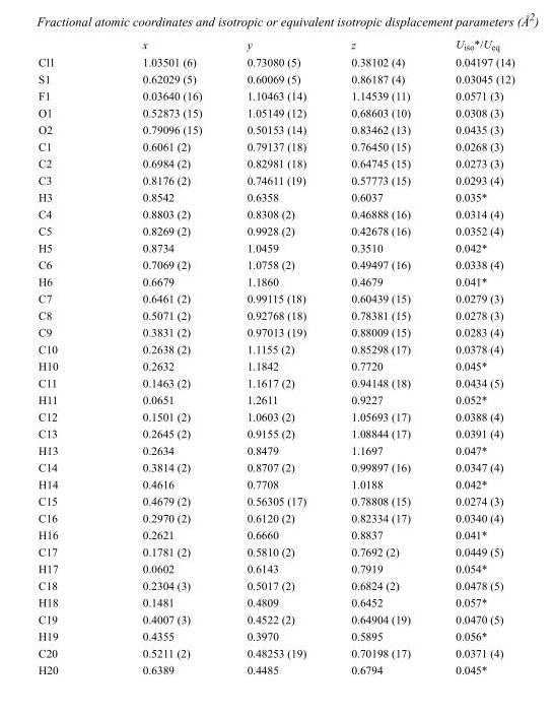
<table><thead><tr><td></td><td>x</td><td>y</td><td>z</td><td>U<sub>iso</sub>*/U<sub>eq</sub></td></tr></thead><tbody><tr><td>Cl1</td><td>1.03501 (6)</td><td>0.73080 (5)</td><td>0.38102 (4)</td><td>0.04197 (14)</td></tr><tr><td>S1</td><td>0.62029 (5)</td><td>0.60069 (5)</td><td>0.86187 (4)</td><td>0.03045 (12)</td></tr><tr><td>F1</td><td>0.03640 (16)</td><td>1.10463 (14)</td><td>1.14539 (11)</td><td>0.0571 (3)</td></tr><tr><td>O1</td><td>0.52873 (15)</td><td>1.05149 (12)</td><td>0.68603 (10)</td><td>0.0308 (3)</td></tr><tr><td>O2</td><td>0.79096 (15)</td><td>0.50153 (14)</td><td>0.83462 (13)</td><td>0.0435 (3)</td></tr><tr><td>C1</td><td>0.6061 (2)</td><td>0.79137 (18)</td><td>0.76450 (15)</td><td>0.0268 (3)</td></tr><tr><td>C2</td><td>0.6984 (2)</td><td>0.82981 (18)</td><td>0.64745 (15)</td><td>0.0273 (3)</td></tr><tr><td>C3</td><td>0.8176 (2)</td><td>0.74611 (19)</td><td>0.57773 (15)</td><td>0.0293 (4)</td></tr><tr><td>H3</td><td>0.8542</td><td>0.6358</td><td>0.6037</td><td>0.035*</td></tr><tr><td>C4</td><td>0.8803 (2)</td><td>0.8308 (2)</td><td>0.46888 (16)</td><td>0.0314 (4)</td></tr><tr><td>C5</td><td>0.8269 (2)</td><td>0.9928 (2)</td><td>0.42678 (16)</td><td>0.0352 (4)</td></tr><tr><td>H5</td><td>0.8734</td><td>1.0459</td><td>0.3510</td><td>0.042*</td></tr><tr><td>C6</td><td>0.7069 (2)</td><td>1.0758 (2)</td><td>0.49497 (16)</td><td>0.0338 (4)</td></tr><tr><td>H6</td><td>0.6679</td><td>1.1860</td><td>0.4679</td><td>0.041*</td></tr><tr><td>C7</td><td>0.6461 (2)</td><td>0.99115 (18)</td><td>0.60439 (15)</td><td>0.0279 (3)</td></tr><tr><td>C8</td><td>0.5071 (2)</td><td>0.92768 (18)</td><td>0.78381 (15)</td><td>0.0278 (3)</td></tr><tr><td>C9</td><td>0.3831 (2)</td><td>0.97013 (19)</td><td>0.88009 (15)</td><td>0.0283 (4)</td></tr><tr><td>C10</td><td>0.2638 (2)</td><td>1.1155 (2)</td><td>0.85298 (17)</td><td>0.0378 (4)</td></tr><tr><td>H10</td><td>0.2632</td><td>1.1842</td><td>0.7720</td><td>0.045*</td></tr><tr><td>C11</td><td>0.1463 (2)</td><td>1.1617 (2)</td><td>0.94148 (18)</td><td>0.0434 (5)</td></tr><tr><td>H11</td><td>0.0651</td><td>1.2611</td><td>0.9227</td><td>0.052*</td></tr><tr><td>C12</td><td>0.1501 (2)</td><td>1.0603 (2)</td><td>1.05693 (17)</td><td>0.0388 (4)</td></tr><tr><td>C13</td><td>0.2645 (2)</td><td>0.9155 (2)</td><td>1.08844 (17)</td><td>0.0391 (4)</td></tr><tr><td>H13</td><td>0.2634</td><td>0.8479</td><td>1.1697</td><td>0.047*</td></tr><tr><td>C14</td><td>0.3814 (2)</td><td>0.8707 (2)</td><td>0.99897 (16)</td><td>0.0347 (4)</td></tr><tr><td>H14</td><td>0.4616</td><td>0.7708</td><td>1.0188</td><td>0.042*</td></tr><tr><td>C15</td><td>0.4679 (2)</td><td>0.56305 (17)</td><td>0.78808 (15)</td><td>0.0274 (3)</td></tr><tr><td>C16</td><td>0.2970 (2)</td><td>0.6120 (2)</td><td>0.82334 (17)</td><td>0.0340 (4)</td></tr><tr><td>H16</td><td>0.2621</td><td>0.6660</td><td>0.8837</td><td>0.041*</td></tr><tr><td>C17</td><td>0.1781 (2)</td><td>0.5810 (2)</td><td>0.7692 (2)</td><td>0.0449 (5)</td></tr><tr><td>H17</td><td>0.0602</td><td>0.6143</td><td>0.7919</td><td>0.054*</td></tr><tr><td>C18</td><td>0.2304 (3)</td><td>0.5017 (2)</td><td>0.6824 (2)</td><td>0.0478 (5)</td></tr><tr><td>H18</td><td>0.1481</td><td>0.4809</td><td>0.6452</td><td>0.057*</td></tr><tr><td>C19</td><td>0.4007 (3)</td><td>0.4522 (2)</td><td>0.64904 (19)</td><td>0.0470 (5)</td></tr><tr><td>H19</td><td>0.4355</td><td>0.3970</td><td>0.5895</td><td>0.056*</td></tr><tr><td>C20</td><td>0.5211 (2)</td><td>0.48253 (19)</td><td>0.70198 (17)</td><td>0.0371 (4)</td></tr><tr><td>H20</td><td>0.6389</td><td>0.4485</td><td>0.6794</td><td>0.045*</td></tr></tbody></table>